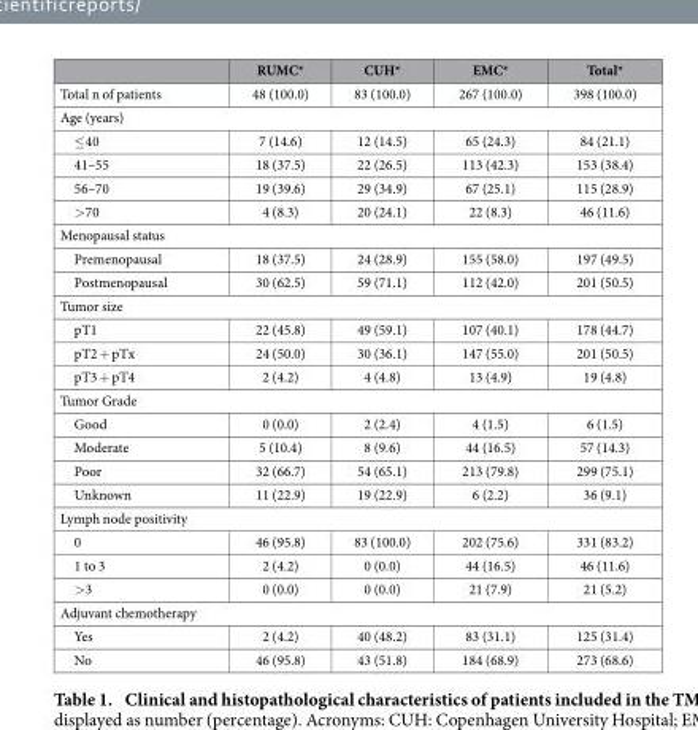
<table><thead><tr><td></td><td>RUMC*</td><td>CUH*</td><td>EMC*</td><td>Total*</td></tr></thead><tbody><tr><td>Total n of patients</td><td>48 (100.0)</td><td>83 (100.0)</td><td>267 (100.0)</td><td>398 (100.0)</td></tr><tr><td colspan="5">Age (years)</td></tr><tr><td>≤ 40</td><td>7 (14.6)</td><td>12 (14.5)</td><td>65 (24.3)</td><td>84 (21.1)</td></tr><tr><td>41–55</td><td>18 (37.5)</td><td>22 (26.5)</td><td>113 (42.3)</td><td>153 (38.4)</td></tr><tr><td>56–70</td><td>19 (39.6)</td><td>29 (34.9)</td><td>67 (25.1)</td><td>115 (28.9)</td></tr><tr><td>&gt; 70</td><td>4 (8.3)</td><td>20 (24.1)</td><td>22 (8.3)</td><td>46 (11.6)</td></tr><tr><td colspan="5">Menopausal status</td></tr><tr><td>Premenopausal</td><td>18 (37.5)</td><td>24 (28.9)</td><td>155 (58.0)</td><td>197 (49.5)</td></tr><tr><td>Postmenopausal</td><td>30 (62.5)</td><td>59 (71.1)</td><td>112 (42.0)</td><td>201 (50.5)</td></tr><tr><td colspan="5">Tumor size</td></tr><tr><td>pT1</td><td>22 (45.8)</td><td>49 (59.1)</td><td>107 (40.1)</td><td>178 (44.7)</td></tr><tr><td>pT2 + pTx</td><td>24 (50.0)</td><td>30 (36.1)</td><td>147 (55.0)</td><td>201 (50.5)</td></tr><tr><td>pT3 + pT4</td><td>2 (4.2)</td><td>4 (4.8)</td><td>13 (4.9)</td><td>19 (4.8)</td></tr><tr><td colspan="5">Tumor Grade</td></tr><tr><td>Good</td><td>0 (0.0)</td><td>2 (2.4)</td><td>4 (1.5)</td><td>6 (1.5)</td></tr><tr><td>Moderate</td><td>5 (10.4)</td><td>8 (9.6)</td><td>44 (16.5)</td><td>57 (14.3)</td></tr><tr><td>Poor</td><td>32 (66.7)</td><td>54 (65.1)</td><td>213 (79.8)</td><td>299 (75.1)</td></tr><tr><td>Unknown</td><td>11 (22.9)</td><td>19 (22.9)</td><td>6 (2.2)</td><td>36 (9.1)</td></tr><tr><td colspan="5">Lymph node positivity</td></tr><tr><td>0</td><td>46 (95.8)</td><td>83 (100.0)</td><td>202 (75.6)</td><td>331 (83.2)</td></tr><tr><td>1 to 3</td><td>2 (4.2)</td><td>0 (0.0)</td><td>44 (16.5)</td><td>46 (11.6)</td></tr><tr><td>&gt; 3</td><td>0 (0.0)</td><td>0 (0.0)</td><td>21 (7.9)</td><td>21 (5.2)</td></tr><tr><td colspan="5">Adjuvant chemotherapy</td></tr><tr><td>Yes</td><td>2 (4.2)</td><td>40 (48.2)</td><td>83 (31.1)</td><td>125 (31.4)</td></tr><tr><td>No</td><td>46 (95.8)</td><td>43 (51.8)</td><td>184 (68.9)</td><td>273 (68.6)</td></tr></tbody></table>